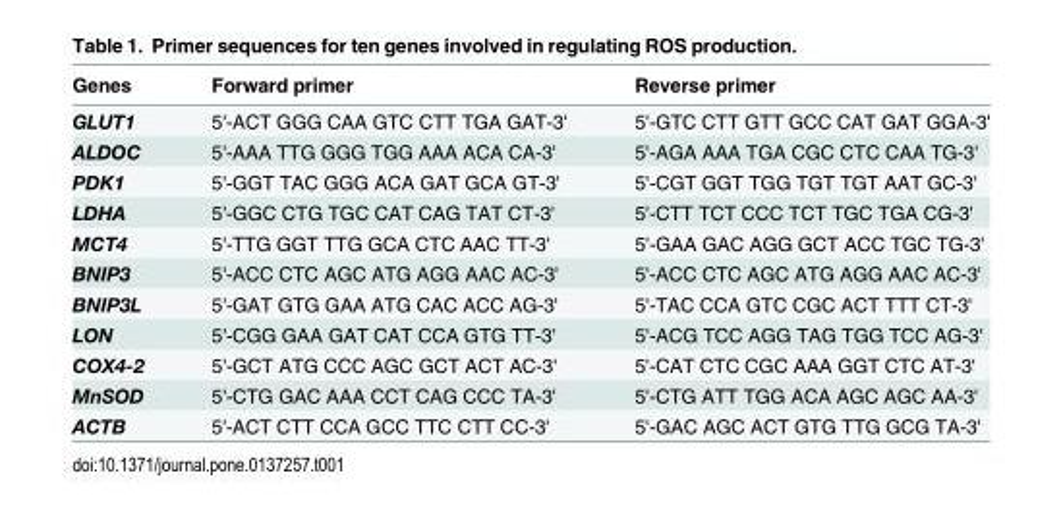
<table><thead><tr><td>Genes</td><td>Forward primer</td><td>Reverse primer</td></tr></thead><tbody><tr><td>GLUT1</td><td>5&#x27;-ACT GGG CAA GTC CTT TGA GAT-3&#x27;</td><td>5&#x27;-GTC CTT GTT GCC CAT GAT GGA-3&#x27;</td></tr><tr><td>ALDOC</td><td>5&#x27;-AAA TTG GGG TGG AAA ACA CA-3&#x27;</td><td>5&#x27;-AGA AAA TGA CGC CTC CAA TG-3&#x27;</td></tr><tr><td>PDK1</td><td>5&#x27;-GGT TAC GGG ACA GAT GCA GT-3&#x27;</td><td>5&#x27;-CGT GGT TGG TGT TGT AAT GC-3&#x27;</td></tr><tr><td>LDHA</td><td>5&#x27;-GGC CTG TGC CAT CAG TAT CT-3&#x27;</td><td>5&#x27;-CTT TCT CCC TCT TGC TGA CG-3&#x27;</td></tr><tr><td>MCT4</td><td>5&#x27;-TTG GGT TTG GCA CTC AAC TT-3&#x27;</td><td>5&#x27;-GAA GAC AGG GCT ACC TGC TG-3&#x27;</td></tr><tr><td>BNIP3</td><td>5&#x27;-ACC CTC AGC ATG AGG AAC AC-3&#x27;</td><td>5&#x27;-ACC CTC AGC ATG AGG AAC AC-3&#x27;</td></tr><tr><td>BNIP3L</td><td>5&#x27;-GAT GTG GAA ATG CAC ACC AG-3&#x27;</td><td>5&#x27;-TAC CCA GTC CGC ACT TTT CT-3&#x27;</td></tr><tr><td>LON</td><td>5&#x27;-CGG GAA GAT CAT CCA GTG TT-3&#x27;</td><td>5&#x27;-ACG TCC AGG TAG TGG TCC AG-3&#x27;</td></tr><tr><td>COX4-2</td><td>5&#x27;-GCT ATG CCC AGC GCT ACT AC-3&#x27;</td><td>5&#x27;-CAT CTC CGC AAA GGT CTC AT-3&#x27;</td></tr><tr><td>MnSOD</td><td>5&#x27;-CTG GAC AAA CCT CAG CCC TA-3&#x27;</td><td>5&#x27;-CTG ATT TGG ACA AGC AGC AA-3&#x27;</td></tr><tr><td>ACTB</td><td>5&#x27;-ACT CTT CCA GCC TTC CTT CC-3&#x27;</td><td>5&#x27;-GAC AGC ACT GTG TTG GCG TA-3&#x27;</td></tr></tbody></table>